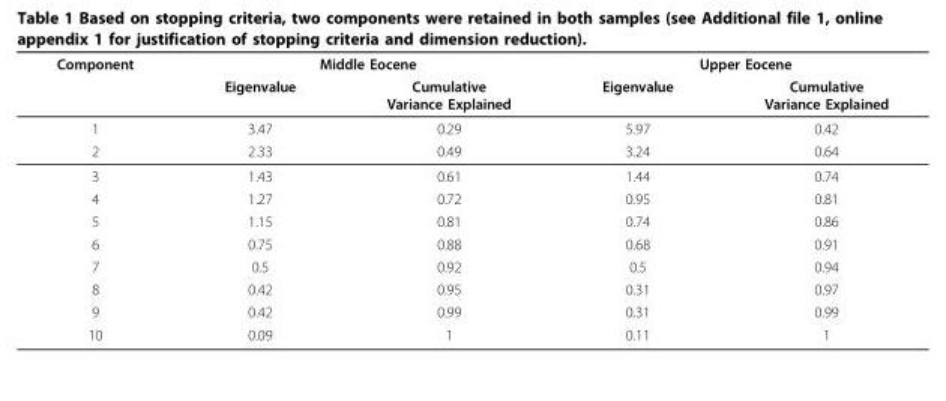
<table><thead><tr><td rowspan="2">Component</td><td colspan="2">Middle Eocene</td><td colspan="2">Upper Eocene</td></tr><tr><td>Eigenvalue</td><td>Cumulative Variance Explained</td><td>Eigenvalue</td><td>Cumulative Variance Explained</td></tr></thead><tbody><tr><td>1</td><td>3.47</td><td>0.29</td><td>5.97</td><td>0.42</td></tr><tr><td>2</td><td>2.33</td><td>0.49</td><td>3.24</td><td>0.64</td></tr><tr><td>3</td><td>1.43</td><td>0.61</td><td>1.44</td><td>0.74</td></tr><tr><td>4</td><td>1.27</td><td>0.72</td><td>0.95</td><td>0.81</td></tr><tr><td>5</td><td>1.15</td><td>0.81</td><td>0.74</td><td>0.86</td></tr><tr><td>6</td><td>0.75</td><td>0.88</td><td>0.68</td><td>0.91</td></tr><tr><td>7</td><td>0.5</td><td>0.92</td><td>0.5</td><td>0.94</td></tr><tr><td>8</td><td>0.42</td><td>0.95</td><td>0.31</td><td>0.97</td></tr><tr><td>9</td><td>0.42</td><td>0.99</td><td>0.31</td><td>0.99</td></tr><tr><td>10</td><td>0.09</td><td>1</td><td>0.11</td><td>1</td></tr></tbody></table>